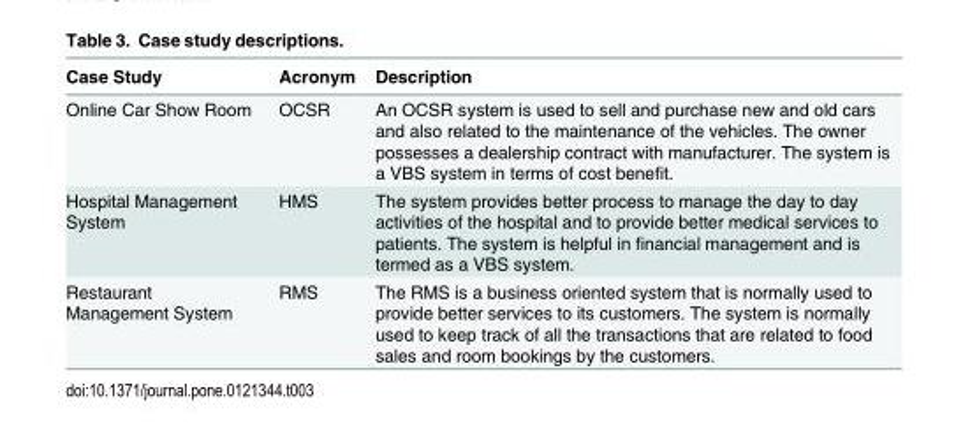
<table><thead><tr><td>Case Study</td><td>Acronym</td><td>Description</td></tr></thead><tbody><tr><td>Online Car Show Room</td><td>OCSR</td><td>An OCSR system is used to sell and purchase new and old cars and also related to the maintenance of the vehicles. The owner possesses a dealership contract with manufacturer. The system is a VBS system in terms of cost benefit.</td></tr><tr><td>Hospital Management System</td><td>HMS</td><td>The system provides better process to manage the day to day activities of the hospital and to provide better medical services to patients. The system is helpful in financial management and is termed as a VBS system.</td></tr><tr><td>Restaurant Management System</td><td>RMS</td><td>The RMS is a business oriented system that is normally used to provide better services to its customers. The system is normally used to keep track of all the transactions that are related to food sales and room bookings by the customers.</td></tr></tbody></table>